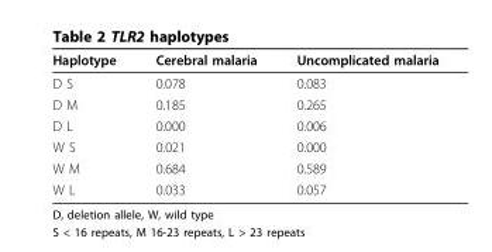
<table><thead><tr><td>Haplotype</td><td>Cerebral malaria</td><td>Uncomplicated malaria</td></tr></thead><tbody><tr><td>D S</td><td>0.078</td><td>0.083</td></tr><tr><td>D M</td><td>0.185</td><td>0.265</td></tr><tr><td>D L</td><td>0.000</td><td>0.006</td></tr><tr><td>W S</td><td>0.021</td><td>0.000</td></tr><tr><td>W M</td><td>0.684</td><td>0.589</td></tr><tr><td>W L</td><td>0.033</td><td>0.057</td></tr></tbody></table>